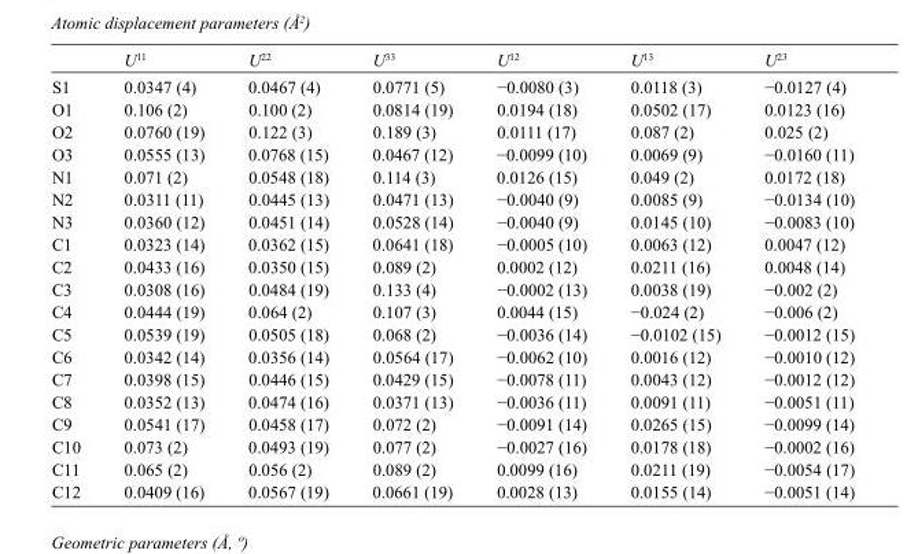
<table><thead><tr><td></td><td>U<sup>11</sup></td><td>U<sup>22</sup></td><td>U<sup>33</sup></td><td>U<sup>12</sup></td><td>U<sup>13</sup></td><td>U<sup>23</sup></td></tr></thead><tbody><tr><td>S1</td><td>0.0347 (4)</td><td>0.0467 (4)</td><td>0.0771 (5)</td><td>−0.0080 (3)</td><td>0.0118 (3)</td><td>−0.0127 (4)</td></tr><tr><td>O1</td><td>0.106 (2)</td><td>0.100 (2)</td><td>0.0814 (19)</td><td>0.0194 (18)</td><td>0.0502 (17)</td><td>0.0123 (16)</td></tr><tr><td>O2</td><td>0.0760 (19)</td><td>0.122 (3)</td><td>0.189 (3)</td><td>0.0111 (17)</td><td>0.087 (2)</td><td>0.025 (2)</td></tr><tr><td>O3</td><td>0.0555 (13)</td><td>0.0768 (15)</td><td>0.0467 (12)</td><td>−0.0099 (10)</td><td>0.0069 (9)</td><td>−0.0160 (11)</td></tr><tr><td>N1</td><td>0.071 (2)</td><td>0.0548 (18)</td><td>0.114 (3)</td><td>0.0126 (15)</td><td>0.049 (2)</td><td>0.0172 (18)</td></tr><tr><td>N2</td><td>0.0311 (11)</td><td>0.0445 (13)</td><td>0.0471 (13)</td><td>−0.0040 (9)</td><td>0.0085 (9)</td><td>−0.0134 (10)</td></tr><tr><td>N3</td><td>0.0360 (12)</td><td>0.0451 (14)</td><td>0.0528 (14)</td><td>−0.0040 (9)</td><td>0.0145 (10)</td><td>−0.0083 (10)</td></tr><tr><td>C1</td><td>0.0323 (14)</td><td>0.0362 (15)</td><td>0.0641 (18)</td><td>−0.0005 (10)</td><td>0.0063 (12)</td><td>0.0047 (12)</td></tr><tr><td>C2</td><td>0.0433 (16)</td><td>0.0350 (15)</td><td>0.089 (2)</td><td>0.0002 (12)</td><td>0.0211 (16)</td><td>0.0048 (14)</td></tr><tr><td>C3</td><td>0.0308 (16)</td><td>0.0484 (19)</td><td>0.133 (4)</td><td>−0.0002 (13)</td><td>0.0038 (19)</td><td>−0.002 (2)</td></tr><tr><td>C4</td><td>0.0444 (19)</td><td>0.064 (2)</td><td>0.107 (3)</td><td>0.0044 (15)</td><td>−0.024 (2)</td><td>−0.006 (2)</td></tr><tr><td>C5</td><td>0.0539 (19)</td><td>0.0505 (18)</td><td>0.068 (2)</td><td>−0.0036 (14)</td><td>−0.0102 (15)</td><td>−0.0012 (15)</td></tr><tr><td>C6</td><td>0.0342 (14)</td><td>0.0356 (14)</td><td>0.0564 (17)</td><td>−0.0062 (10)</td><td>0.0016 (12)</td><td>−0.0010 (12)</td></tr><tr><td>C7</td><td>0.0398 (15)</td><td>0.0446 (15)</td><td>0.0429 (15)</td><td>−0.0078 (11)</td><td>0.0043 (12)</td><td>−0.0012 (12)</td></tr><tr><td>C8</td><td>0.0352 (13)</td><td>0.0474 (16)</td><td>0.0371 (13)</td><td>−0.0036 (11)</td><td>0.0091 (11)</td><td>−0.0051 (11)</td></tr><tr><td>C9</td><td>0.0541 (17)</td><td>0.0458 (17)</td><td>0.072 (2)</td><td>−0.0091 (14)</td><td>0.0265 (15)</td><td>−0.0099 (14)</td></tr><tr><td>C10</td><td>0.073 (2)</td><td>0.0493 (19)</td><td>0.077 (2)</td><td>−0.0027 (16)</td><td>0.0178 (18)</td><td>−0.0002 (16)</td></tr><tr><td>C11</td><td>0.065 (2)</td><td>0.056 (2)</td><td>0.089 (2)</td><td>0.0099 (16)</td><td>0.0211 (19)</td><td>−0.0054 (17)</td></tr><tr><td>C12</td><td>0.0409 (16)</td><td>0.0567 (19)</td><td>0.0661 (19)</td><td>0.0028 (13)</td><td>0.0155 (14)</td><td>−0.0051 (14)</td></tr></tbody></table>